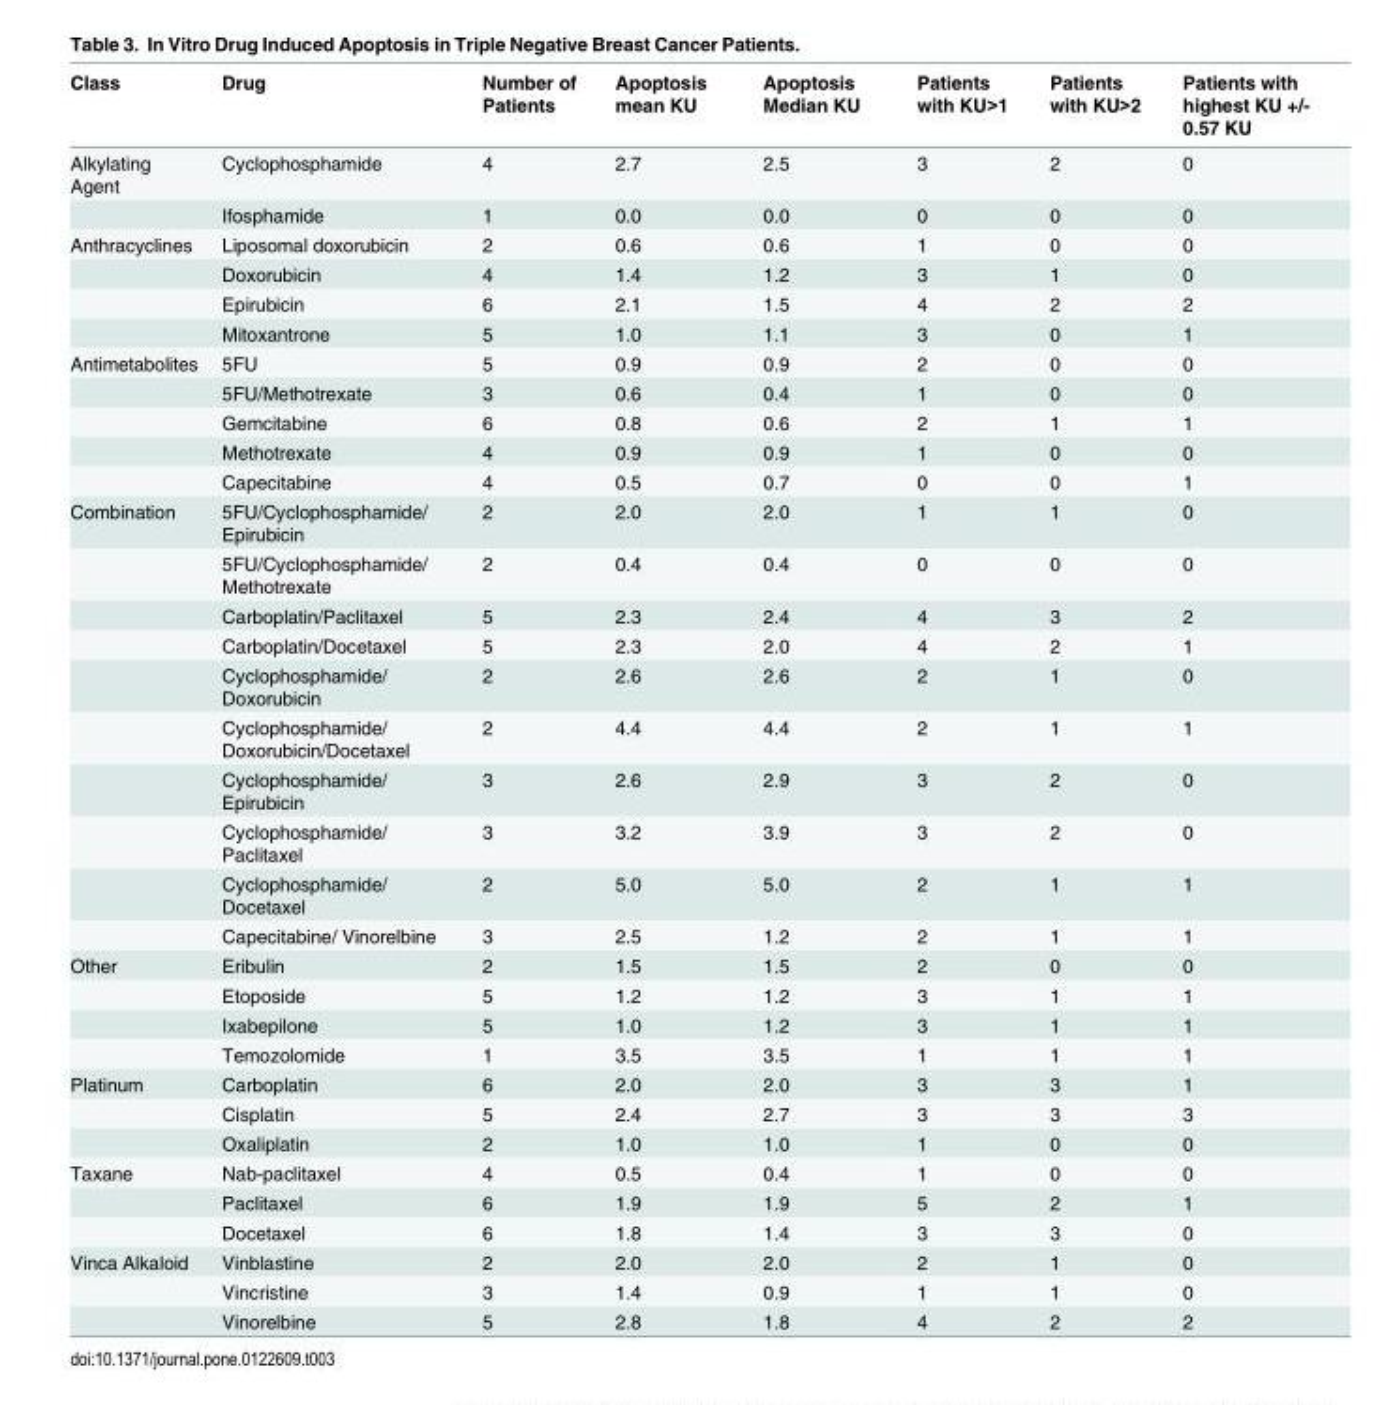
<table><thead><tr><td>Class</td><td>Drug</td><td>Number of Patients</td><td>Apoptosis mean KU</td><td>Apoptosis Median KU</td><td>Patients with KU&gt;1</td><td>Patients with KU&gt;2</td><td>Patients with highest KU +/- 0.57 KU</td></tr></thead><tbody><tr><td rowspan="2">Alkylating Agent</td><td>Cyclophosphamide</td><td>4</td><td>2.7</td><td>2.5</td><td>3</td><td>2</td><td>0</td></tr><tr><td>Ifosphamide</td><td>1</td><td>0.0</td><td>0.0</td><td>0</td><td>0</td><td>0</td></tr><tr><td rowspan="4">Anthracyclines</td><td>Liposomal doxorubicin</td><td>2</td><td>0.6</td><td>0.6</td><td>1</td><td>0</td><td>0</td></tr><tr><td>Doxorubicin</td><td>4</td><td>1.4</td><td>1.2</td><td>3</td><td>1</td><td>0</td></tr><tr><td>Epirubicin</td><td>6</td><td>2.1</td><td>1.5</td><td>4</td><td>2</td><td>2</td></tr><tr><td>Mitoxantrone</td><td>5</td><td>1.0</td><td>1.1</td><td>3</td><td>0</td><td>1</td></tr><tr><td rowspan="5">Antimetabolites</td><td>5FU</td><td>5</td><td>0.9</td><td>0.9</td><td>2</td><td>0</td><td>0</td></tr><tr><td>5FU/Methotrexate</td><td>3</td><td>0.6</td><td>0.4</td><td>1</td><td>0</td><td>0</td></tr><tr><td>Gemcitabine</td><td>6</td><td>0.8</td><td>0.6</td><td>2</td><td>1</td><td>1</td></tr><tr><td>Methotrexate</td><td>4</td><td>0.9</td><td>0.9</td><td>1</td><td>0</td><td>0</td></tr><tr><td>Capecitabine</td><td>4</td><td>0.5</td><td>0.7</td><td>0</td><td>0</td><td>1</td></tr><tr><td rowspan="10">Combination</td><td>5FU/Cyclophosphamide/ Epirubicin</td><td>2</td><td>2.0</td><td>2.0</td><td>1</td><td>1</td><td>0</td></tr><tr><td>5FU/Cyclophosphamide/ Methotrexate</td><td>2</td><td>0.4</td><td>0.4</td><td>0</td><td>0</td><td>0</td></tr><tr><td>Carboplatin/Paclitaxel</td><td>5</td><td>2.3</td><td>2.4</td><td>4</td><td>3</td><td>2</td></tr><tr><td>Carboplatin/Docetaxel</td><td>5</td><td>2.3</td><td>2.0</td><td>4</td><td>2</td><td>1</td></tr><tr><td>Cyclophosphamide/ Doxorubicin</td><td>2</td><td>2.6</td><td>2.6</td><td>2</td><td>1</td><td>0</td></tr><tr><td>Cyclophosphamide/ Doxorubicin/Docetaxel</td><td>2</td><td>4.4</td><td>4.4</td><td>2</td><td>1</td><td>1</td></tr><tr><td>Cyclophosphamide/ Epirubicin</td><td>3</td><td>2.6</td><td>2.9</td><td>3</td><td>2</td><td>0</td></tr><tr><td>Cyclophosphamide/ Paclitaxel</td><td>3</td><td>3.2</td><td>3.9</td><td>3</td><td>2</td><td>0</td></tr><tr><td>Cyclophosphamide/ Docetaxel</td><td>2</td><td>5.0</td><td>5.0</td><td>2</td><td>1</td><td>1</td></tr><tr><td>Capecitabine/ Vinorelbine</td><td>3</td><td>2.5</td><td>1.2</td><td>2</td><td>1</td><td>1</td></tr><tr><td rowspan="4">Other</td><td>Eribulin</td><td>2</td><td>1.5</td><td>1.5</td><td>2</td><td>0</td><td>0</td></tr><tr><td>Etoposide</td><td>5</td><td>1.2</td><td>1.2</td><td>3</td><td>1</td><td>1</td></tr><tr><td>Ixabepilone</td><td>5</td><td>1.0</td><td>1.2</td><td>3</td><td>1</td><td>1</td></tr><tr><td>Temozolomide</td><td>1</td><td>3.5</td><td>3.5</td><td>1</td><td>1</td><td>1</td></tr><tr><td rowspan="3">Platinum</td><td>Carboplatin</td><td>6</td><td>2.0</td><td>2.0</td><td>3</td><td>3</td><td>1</td></tr><tr><td>Cisplatin</td><td>5</td><td>2.4</td><td>2.7</td><td>3</td><td>3</td><td>3</td></tr><tr><td>Oxaliplatin</td><td>2</td><td>1.0</td><td>1.0</td><td>1</td><td>0</td><td>0</td></tr><tr><td rowspan="3">Taxane</td><td>Nab-paclitaxel</td><td>4</td><td>0.5</td><td>0.4</td><td>1</td><td>0</td><td>0</td></tr><tr><td>Paclitaxel</td><td>6</td><td>1.9</td><td>1.9</td><td>5</td><td>2</td><td>1</td></tr><tr><td>Docetaxel</td><td>6</td><td>1.8</td><td>1.4</td><td>3</td><td>3</td><td>0</td></tr><tr><td rowspan="3">Vinca Alkaloid</td><td>Vinblastine</td><td>2</td><td>2.0</td><td>2.0</td><td>2</td><td>1</td><td>0</td></tr><tr><td>Vincristine</td><td>3</td><td>1.4</td><td>0.9</td><td>1</td><td>1</td><td>0</td></tr><tr><td>Vinorelbine</td><td>5</td><td>2.8</td><td>1.8</td><td>4</td><td>2</td><td>2</td></tr></tbody></table>